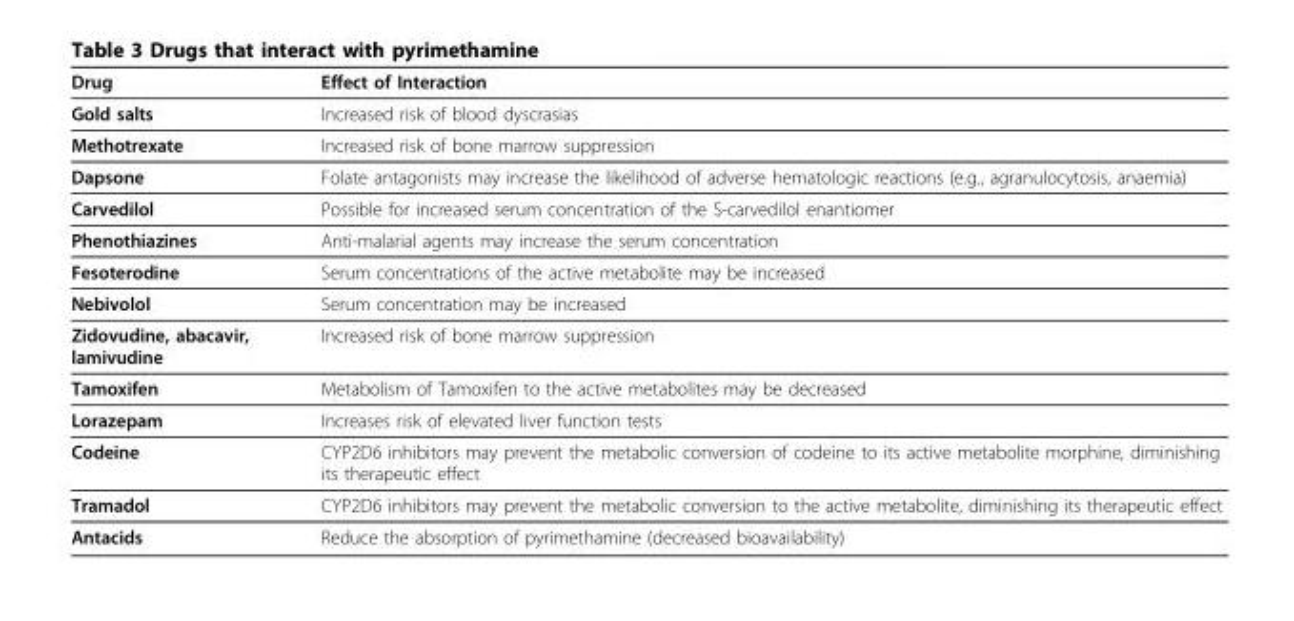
<table><thead><tr><td>Drug</td><td>Effect of Interaction</td></tr></thead><tbody><tr><td>Gold salts</td><td>Increased risk of blood dyscrasias</td></tr><tr><td>Methotrexate</td><td>Increased risk of bone marrow suppression</td></tr><tr><td>Dapsone</td><td>Folate antagonists may increase the likelihood of adverse hematologic reactions (e.g., agranulocytosis, anaemia)</td></tr><tr><td>Carvedilol</td><td>Possible for increased serum concentration of the S-carvedilol enantiomer</td></tr><tr><td>Phenothiazines</td><td>Anti-malarial agents may increase the serum concentration</td></tr><tr><td>Fesoterodine</td><td>Serum concentrations of the active metabolite may be increased</td></tr><tr><td>Nebivolol</td><td>Serum concentration may be increased</td></tr><tr><td>Zidovudine, abacavir, lamivudine</td><td>Increased risk of bone marrow suppression</td></tr><tr><td>Tamoxifen</td><td>Metabolism of Tamoxifen to the active metabolites may be decreased</td></tr><tr><td>Lorazepam</td><td>Increases risk of elevated liver function tests</td></tr><tr><td>Codeine</td><td>CYP2D6 inhibitors may prevent the metabolic conversion of codeine to its active metabolite morphine, diminishing its therapeutic effect</td></tr><tr><td>Tramadol</td><td>CYP2D6 inhibitors may prevent the metabolic conversion to the active metabolite, diminishing its therapeutic effect</td></tr><tr><td>Antacids</td><td>Reduce the absorption of pyrimethamine (decreased bioavailability)</td></tr></tbody></table>